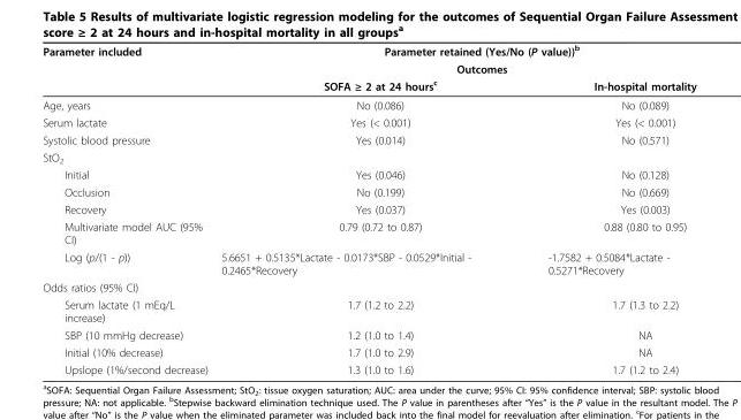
<table><thead><tr><td rowspan="3">Parameter included</td><td rowspan="2" colspan="2">Parameter retained (Yes/No (P value))<sup>b</sup> Outcomes</td></tr><tr></tr><tr><td>SOFA ≥ 2 at 24 hours<sup>c</sup></td><td>In-hospital mortality</td></tr></thead><tbody><tr><td>Age, years</td><td>No (0.086)</td><td>No (0.089)</td></tr><tr><td>Serum lactate</td><td>Yes (&lt; 0.001)</td><td>Yes (&lt; 0.001)</td></tr><tr><td>Systolic blood pressure</td><td>Yes (0.014)</td><td>No (0.571)</td></tr><tr><td colspan="3">StO<sub>2</sub></td></tr><tr><td>Initial</td><td>Yes (0.046)</td><td>No (0.128)</td></tr><tr><td>Occlusion</td><td>No (0.199)</td><td>No (0.669)</td></tr><tr><td>Recovery</td><td>Yes (0.037)</td><td>Yes (0.003)</td></tr><tr><td>Multivariate model AUC (95% CI)</td><td>0.79 (0.72 to 0.87)</td><td>0.88 (0.80 to 0.95)</td></tr><tr><td>Log (p/(1 - p))</td><td>5.6651 + 0.5135*Lactate - 0.0173*SBP - 0.0529*Initial - 0.2465*Recovery</td><td>-1.7582 + 0.5084*Lactate - 0.5271*Recovery</td></tr><tr><td colspan="3">Odds ratios (95% CI)</td></tr><tr><td>Serum lactate (1 mEq/L increase)</td><td>1.7 (1.2 to 2.2)</td><td>1.7 (1.3 to 2.2)</td></tr><tr><td>SBP (10 mmHg decrease)</td><td>1.2 (1.0 to 1.4)</td><td>NA</td></tr><tr><td>Initial (10% decrease)</td><td>1.7 (1.0 to 2.9)</td><td>NA</td></tr><tr><td>Upslope (1%/second decrease)</td><td>1.3 (1.0 to 1.6)</td><td>1.7 (1.2 to 2.4)</td></tr></tbody></table>